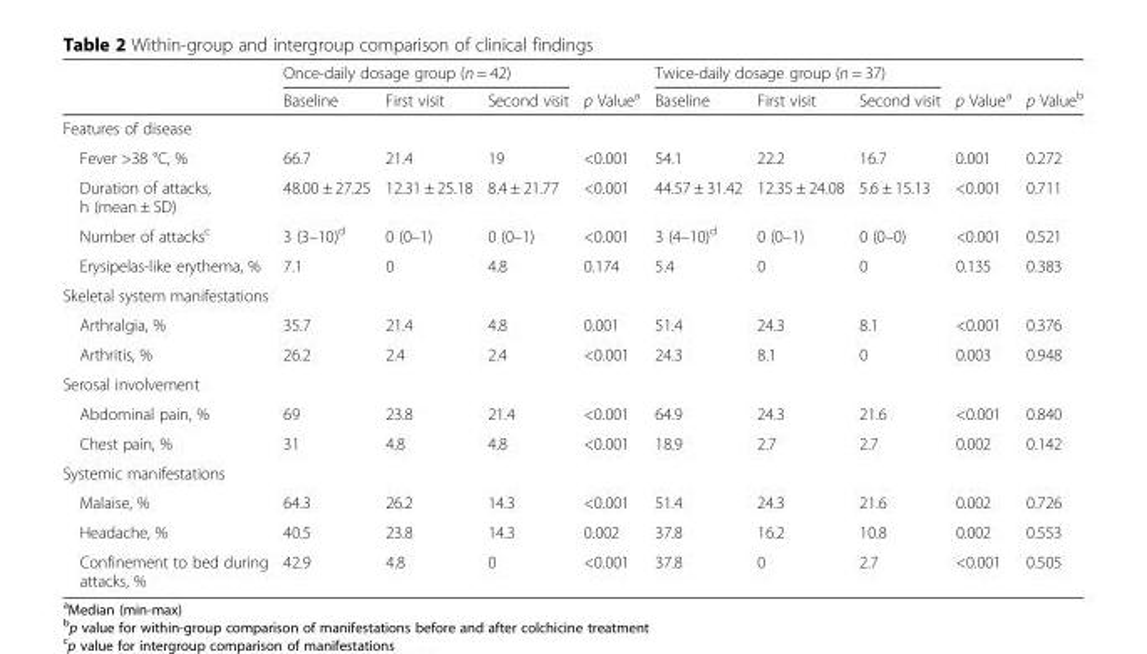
<table><thead><tr><td rowspan="2"></td><td colspan="3">Once-daily dosage group (n = 42)</td><td rowspan="2">p Value<sup>a</sup></td><td colspan="3">Twice-daily dosage group (n = 37)</td><td rowspan="2">p Value<sup>a</sup></td><td rowspan="2">p Value<sup>b</sup></td></tr><tr><td>Baseline</td><td>First visit</td><td>Second visit</td><td>Baseline</td><td>First visit</td><td>Second visit</td></tr></thead><tbody><tr><td colspan="10">Features of disease</td></tr><tr><td>Fever &gt;38 °C, %</td><td>66.7</td><td>21.4</td><td>19</td><td>&lt;0.001</td><td>54.1</td><td>22.2</td><td>16.7</td><td>0.001</td><td>0.272</td></tr><tr><td>Duration of attacks, h (mean ± SD)</td><td>48.00 ± 27.25</td><td>12.31 ± 25.18</td><td>8.4 ± 21.77</td><td>&lt;0.001</td><td>44.57 ± 31.42</td><td>12.35 ± 24.08</td><td>5.6 ± 15.13</td><td>&lt;0.001</td><td>0.711</td></tr><tr><td>Number of attacks<sup>c</sup></td><td>3 (3–10)<sup>d</sup></td><td>0 (0–1)</td><td>0 (0–1)</td><td>&lt;0.001</td><td>3 (4–10)<sup>d</sup></td><td>0 (0–1)</td><td>0 (0–0)</td><td>&lt;0.001</td><td>0.521</td></tr><tr><td>Erysipelas-like erythema, %</td><td>7.1</td><td>0</td><td>4.8</td><td>0.174</td><td>5.4</td><td>0</td><td>0</td><td>0.135</td><td>0.383</td></tr><tr><td colspan="10">Skeletal system manifestations</td></tr><tr><td>Arthralgia, %</td><td>35.7</td><td>21.4</td><td>4.8</td><td>0.001</td><td>51.4</td><td>24.3</td><td>8.1</td><td>&lt;0.001</td><td>0.376</td></tr><tr><td>Arthritis, %</td><td>26.2</td><td>2.4</td><td>2.4</td><td>&lt;0.001</td><td>24.3</td><td>8.1</td><td>0</td><td>0.003</td><td>0.948</td></tr><tr><td colspan="10">Serosal involvement</td></tr><tr><td>Abdominal pain, %</td><td>69</td><td>23.8</td><td>21.4</td><td>&lt;0.001</td><td>64.9</td><td>24.3</td><td>21.6</td><td>&lt;0.001</td><td>0.840</td></tr><tr><td>Chest pain, %</td><td>31</td><td>4.8</td><td>4.8</td><td>&lt;0.001</td><td>18.9</td><td>2.7</td><td>2.7</td><td>0.002</td><td>0.142</td></tr><tr><td colspan="10">Systemic manifestations</td></tr><tr><td>Malaise, %</td><td>64.3</td><td>26.2</td><td>14.3</td><td>&lt;0.001</td><td>51.4</td><td>24.3</td><td>21.6</td><td>0.002</td><td>0.726</td></tr><tr><td>Headache, %</td><td>40.5</td><td>23.8</td><td>14.3</td><td>0.002</td><td>37.8</td><td>16.2</td><td>10.8</td><td>0.002</td><td>0.553</td></tr><tr><td>Confinement to bed during attacks, %</td><td>42.9</td><td>4.8</td><td>0</td><td>&lt;0.001</td><td>37.8</td><td>0</td><td>2.7</td><td>&lt;0.001</td><td>0.505</td></tr></tbody></table>